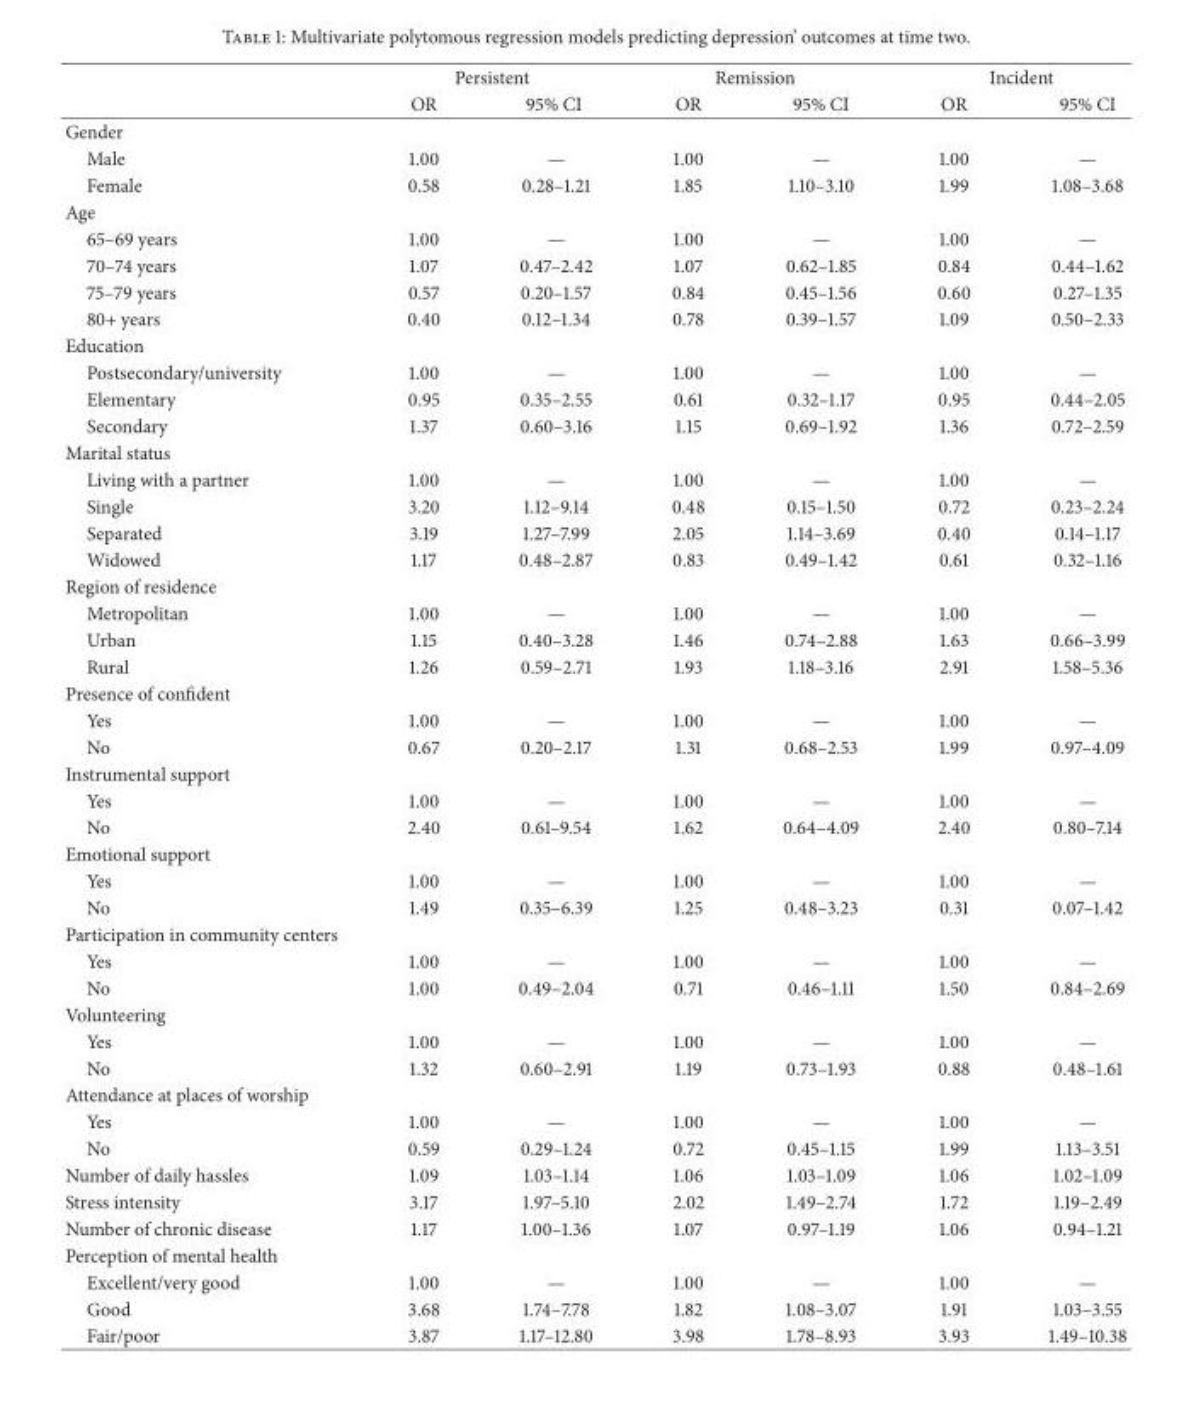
<table><thead><tr><td rowspan="2"></td><td colspan="2">Persistent</td><td colspan="2">Remission</td><td colspan="2">Incident</td></tr><tr><td>OR</td><td>95% CI</td><td>OR</td><td>95% CI</td><td>OR</td><td>95% CI</td></tr></thead><tbody><tr><td colspan="7">Gender</td></tr><tr><td>Male</td><td>1.00</td><td>—</td><td>1.00</td><td>—</td><td>1.00</td><td>—</td></tr><tr><td>Female</td><td>0.58</td><td>0.28–1.21</td><td>1.85</td><td>1.10–3.10</td><td>1.99</td><td>1.08–3.68</td></tr><tr><td colspan="7">Age</td></tr><tr><td>65–69 years</td><td>1.00</td><td>—</td><td>1.00</td><td>—</td><td>1.00</td><td>—</td></tr><tr><td>70–74 years</td><td>1.07</td><td>0.47–2.42</td><td>1.07</td><td>0.62–1.85</td><td>0.84</td><td>0.44–1.62</td></tr><tr><td>75–79 years</td><td>0.57</td><td>0.20–1.57</td><td>0.84</td><td>0.45–1.56</td><td>0.60</td><td>0.27–1.35</td></tr><tr><td>80+ years</td><td>0.40</td><td>0.12–1.34</td><td>0.78</td><td>0.39–1.57</td><td>1.09</td><td>0.50–2.33</td></tr><tr><td colspan="7">Education</td></tr><tr><td>Postsecondary/university</td><td>1.00</td><td>—</td><td>1.00</td><td>—</td><td>1.00</td><td>—</td></tr><tr><td>Elementary</td><td>0.95</td><td>0.35–2.55</td><td>0.61</td><td>0.32–1.17</td><td>0.95</td><td>0.44–2.05</td></tr><tr><td>Secondary</td><td>1.37</td><td>0.60–3.16</td><td>1.15</td><td>0.69–1.92</td><td>1.36</td><td>0.72–2.59</td></tr><tr><td colspan="7">Marital status</td></tr><tr><td>Living with a partner</td><td>1.00</td><td>—</td><td>1.00</td><td>—</td><td>1.00</td><td>—</td></tr><tr><td>Single</td><td>3.20</td><td>1.12–9.14</td><td>0.48</td><td>0.15–1.50</td><td>0.72</td><td>0.23–2.24</td></tr><tr><td>Separated</td><td>3.19</td><td>1.27–7.99</td><td>2.05</td><td>1.14–3.69</td><td>0.40</td><td>0.14–1.17</td></tr><tr><td>Widowed</td><td>1.17</td><td>0.48–2.87</td><td>0.83</td><td>0.49–1.42</td><td>0.61</td><td>0.32–1.16</td></tr><tr><td colspan="7">Region of residence</td></tr><tr><td>Metropolitan</td><td>1.00</td><td>—</td><td>1.00</td><td>—</td><td>1.00</td><td>—</td></tr><tr><td>Urban</td><td>1.15</td><td>0.40–3.28</td><td>1.46</td><td>0.74–2.88</td><td>1.63</td><td>0.66–3.99</td></tr><tr><td>Rural</td><td>1.26</td><td>0.59–2.71</td><td>1.93</td><td>1.18–3.16</td><td>2.91</td><td>1.58–5.36</td></tr><tr><td colspan="7">Presence of confident</td></tr><tr><td>Yes</td><td>1.00</td><td>—</td><td>1.00</td><td>—</td><td>1.00</td><td>—</td></tr><tr><td>No</td><td>0.67</td><td>0.20–2.17</td><td>1.31</td><td>0.68–2.53</td><td>1.99</td><td>0.97–4.09</td></tr><tr><td colspan="7">Instrumental support</td></tr><tr><td>Yes</td><td>1.00</td><td>—</td><td>1.00</td><td>—</td><td>1.00</td><td>—</td></tr><tr><td>No</td><td>2.40</td><td>0.61–9.54</td><td>1.62</td><td>0.64–4.09</td><td>2.40</td><td>0.80–7.14</td></tr><tr><td colspan="7">Emotional support</td></tr><tr><td>Yes</td><td>1.00</td><td>—</td><td>1.00</td><td>—</td><td>1.00</td><td>—</td></tr><tr><td>No</td><td>1.49</td><td>0.35–6.39</td><td>1.25</td><td>0.48–3.23</td><td>0.31</td><td>0.07–1.42</td></tr><tr><td colspan="7">Participation in community centers</td></tr><tr><td>Yes</td><td>1.00</td><td>—</td><td>1.00</td><td>—</td><td>1.00</td><td>—</td></tr><tr><td>No</td><td>1.00</td><td>0.49–2.04</td><td>0.71</td><td>0.46–1.11</td><td>1.50</td><td>0.84–2.69</td></tr><tr><td colspan="7">Volunteering</td></tr><tr><td>Yes</td><td>1.00</td><td>—</td><td>1.00</td><td>—</td><td>1.00</td><td>—</td></tr><tr><td>No</td><td>1.32</td><td>0.60–2.91</td><td>1.19</td><td>0.73–1.93</td><td>0.88</td><td>0.48–1.61</td></tr><tr><td colspan="7">Attendance at places of worship</td></tr><tr><td>Yes</td><td>1.00</td><td>—</td><td>1.00</td><td>—</td><td>1.00</td><td>—</td></tr><tr><td>No</td><td>0.59</td><td>0.29–1.24</td><td>0.72</td><td>0.45–1.15</td><td>1.99</td><td>1.13–3.51</td></tr><tr><td>Number of daily hassles</td><td>1.09</td><td>1.03–1.14</td><td>1.06</td><td>1.03–1.09</td><td>1.06</td><td>1.02–1.09</td></tr><tr><td>Stress intensity</td><td>3.17</td><td>1.97–5.10</td><td>2.02</td><td>1.49–2.74</td><td>1.72</td><td>1.19–2.49</td></tr><tr><td>Number of chronic disease</td><td>1.17</td><td>1.00–1.36</td><td>1.07</td><td>0.97–1.19</td><td>1.06</td><td>0.94–1.21</td></tr><tr><td colspan="7">Perception of mental health</td></tr><tr><td>Excellent/very good</td><td>1.00</td><td>—</td><td>1.00</td><td>—</td><td>1.00</td><td>—</td></tr><tr><td>Good</td><td>3.68</td><td>1.74–7.78</td><td>1.82</td><td>1.08–3.07</td><td>1.91</td><td>1.03–3.55</td></tr><tr><td>Fair/poor</td><td>3.87</td><td>1.17–12.80</td><td>3.98</td><td>1.78–8.93</td><td>3.93</td><td>1.49–10.38</td></tr></tbody></table>